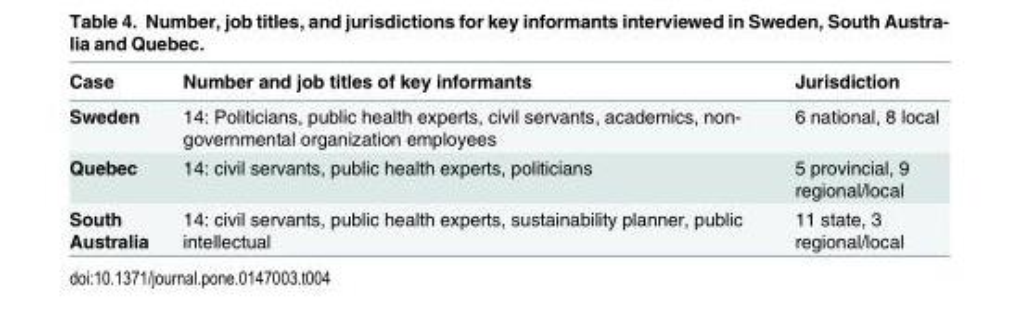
<table><thead><tr><td>Case</td><td>Number and job titles of key informants</td><td>Jurisdiction</td></tr></thead><tbody><tr><td>Sweden</td><td>14: Politicians, public health experts, civil servants, academics, non- governmental organization employees</td><td>6 national, 8 local</td></tr><tr><td>Quebec</td><td>14: civil servants, public health experts, politicians</td><td>5 provincial, 9 regional/local</td></tr><tr><td>South Australia</td><td>14: civil servants, public health experts, sustainability planner, public intellectual</td><td>11 state, 3 regional/local</td></tr></tbody></table>